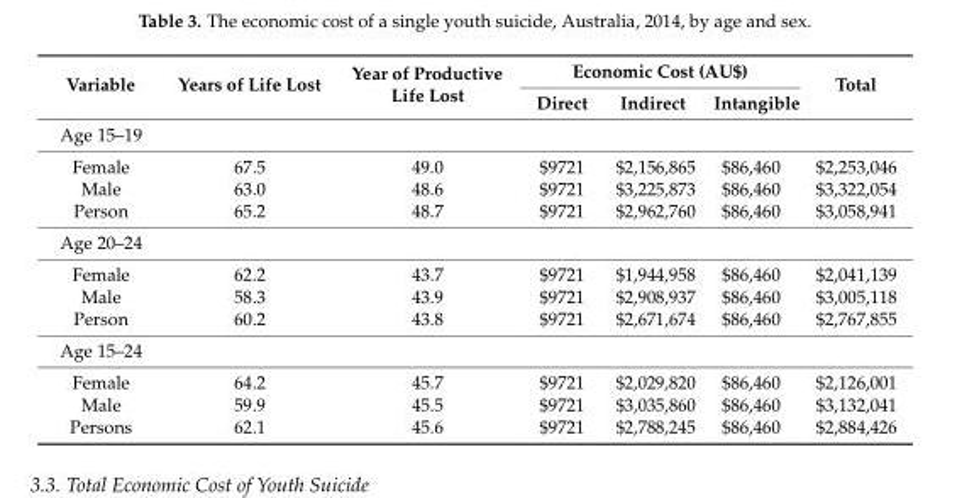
<table><thead><tr><td rowspan="2">Variable</td><td rowspan="2">Years of Life Lost</td><td rowspan="2">Year of Productive Life Lost</td><td colspan="3">Economic Cost (AU$)</td><td rowspan="2">Total</td></tr><tr><td>Direct</td><td>Indirect</td><td>Intangible</td></tr></thead><tbody><tr><td colspan="7">Age 15–19</td></tr><tr><td>Female</td><td>67.5</td><td>49.0</td><td>$9721</td><td>$2,156,865</td><td>$86,460</td><td>$2,253,046</td></tr><tr><td>Male</td><td>63.0</td><td>48.6</td><td>$9721</td><td>$3,225,873</td><td>$86,460</td><td>$3,322,054</td></tr><tr><td>Person</td><td>65.2</td><td>48.7</td><td>$9721</td><td>$2,962,760</td><td>$86,460</td><td>$3,058,941</td></tr><tr><td colspan="7">Age 20–24</td></tr><tr><td>Female</td><td>62.2</td><td>43.7</td><td>$9721</td><td>$1,944,958</td><td>$86,460</td><td>$2,041,139</td></tr><tr><td>Male</td><td>58.3</td><td>43.9</td><td>$9721</td><td>$2,908,937</td><td>$86,460</td><td>$3,005,118</td></tr><tr><td>Person</td><td>60.2</td><td>43.8</td><td>$9721</td><td>$2,671,674</td><td>$86,460</td><td>$2,767,855</td></tr><tr><td colspan="7">Age 15–24</td></tr><tr><td>Female</td><td>64.2</td><td>45.7</td><td>$9721</td><td>$2,029,820</td><td>$86,460</td><td>$2,126,001</td></tr><tr><td>Male</td><td>59.9</td><td>45.5</td><td>$9721</td><td>$3,035,860</td><td>$86,460</td><td>$3,132,041</td></tr><tr><td>Persons</td><td>62.1</td><td>45.6</td><td>$9721</td><td>$2,788,245</td><td>$86,460</td><td>$2,884,426</td></tr></tbody></table>